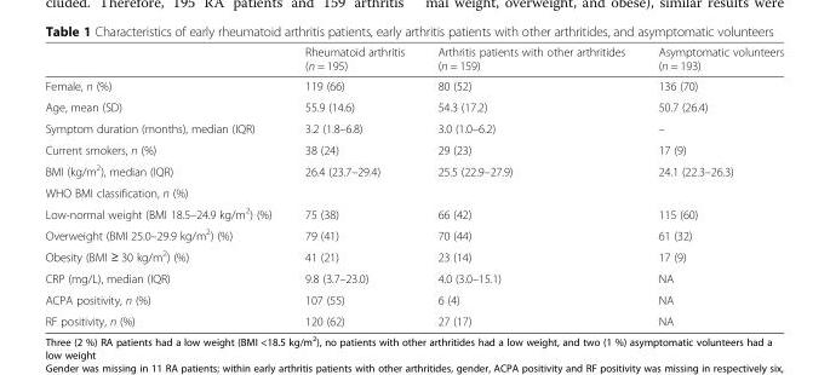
<table><thead><tr><td></td><td>Rheumatoid arthritis (n = 195)</td><td>Arthritis patients with other arthritides (n = 159)</td><td>Asymptomatic volunteers (n = 193)</td></tr></thead><tbody><tr><td>Female, n (%)</td><td>119 (66)</td><td>80 (52)</td><td>136 (70)</td></tr><tr><td>Age, mean (SD)</td><td>55.9 (14.6)</td><td>54.3 (17.2)</td><td>50.7 (26.4)</td></tr><tr><td>Symptom duration (months), median (IQR)</td><td>3.2 (1.8–6.8)</td><td>3.0 (1.0–6.2)</td><td>–</td></tr><tr><td>Current smokers, n (%)</td><td>38 (24)</td><td>29 (23)</td><td>17 (9)</td></tr><tr><td>BMI (kg/m<sup>2</sup>), median (IQR)</td><td>26.4 (23.7–29.4)</td><td>25.5 (22.9–27.9)</td><td>24.1 (22.3–26.3)</td></tr><tr><td colspan="4">WHO BMI classification, n (%)</td></tr><tr><td>Low-normal weight (BMI 18.5–24.9 kg/m<sup>2</sup>) (%)</td><td>75 (38)</td><td>66 (42)</td><td>115 (60)</td></tr><tr><td>Overweight (BMI 25.0–29.9 kg/m<sup>2</sup>) (%)</td><td>79 (41)</td><td>70 (44)</td><td>61 (32)</td></tr><tr><td>Obesity (BMI ≥ 30 kg/m<sup>2</sup>) (%)</td><td>41 (21)</td><td>23 (14)</td><td>17 (9)</td></tr><tr><td>CRP (mg/L), median (IQR)</td><td>9.8 (3.7–23.0)</td><td>4.0 (3.0–15.1)</td><td>NA</td></tr><tr><td>ACPA positivity, n (%)</td><td>107 (55)</td><td>6 (4)</td><td>NA</td></tr><tr><td>RF positivity, n (%)</td><td>120 (62)</td><td>27 (17)</td><td>NA</td></tr></tbody></table>